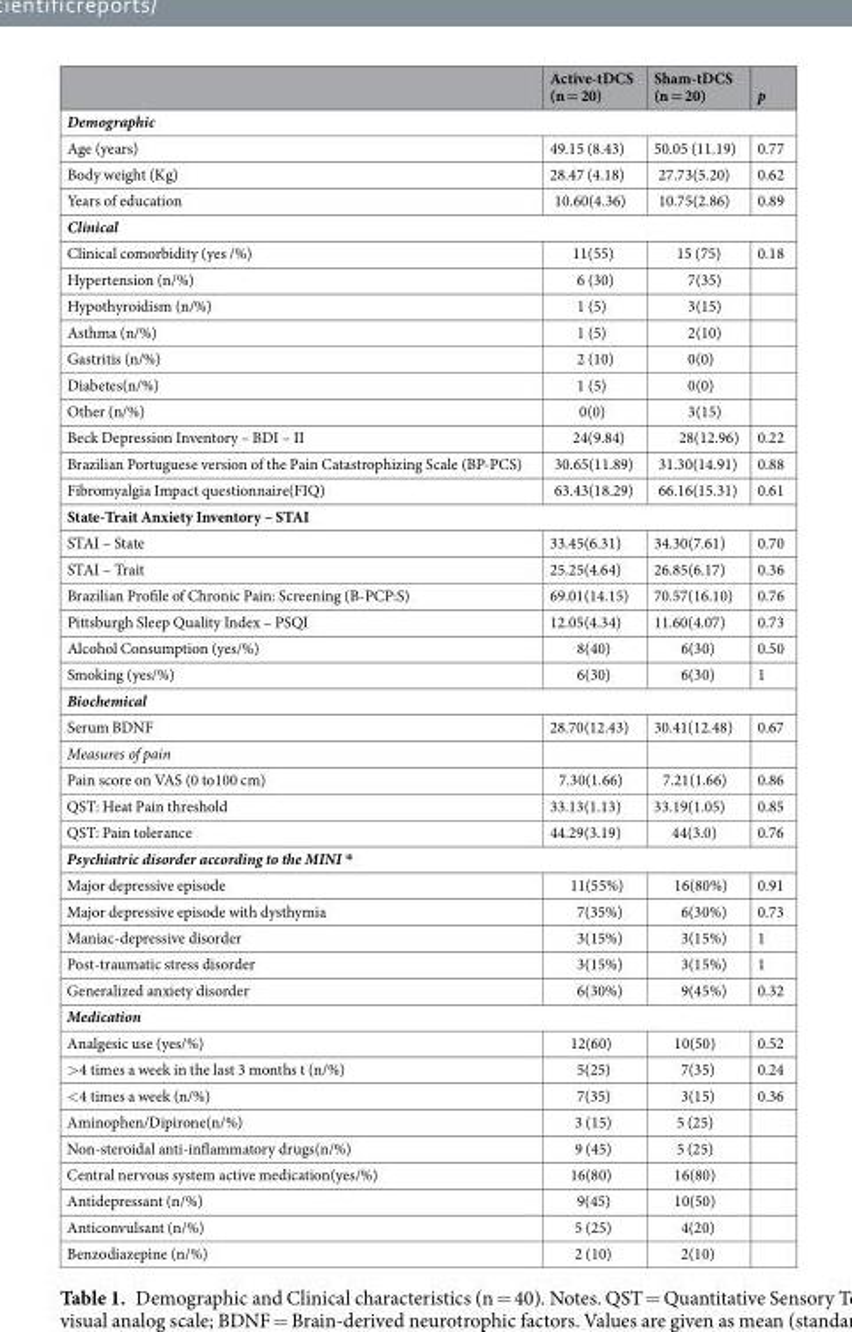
<table><thead><tr><td></td><td>Active-tDCS (n = 20)</td><td>Sham-tDCS (n = 20)</td><td>p</td></tr></thead><tbody><tr><td colspan="4">Demographic</td></tr><tr><td>Age (years)</td><td>49.15 (8.43)</td><td>50.05 (11.19)</td><td>0.77</td></tr><tr><td>Body weight (Kg)</td><td>28.47 (4.18)</td><td>27.73(5.20)</td><td>0.62</td></tr><tr><td>Years of education</td><td>10.60(4.36)</td><td>10.75(2.86)</td><td>0.89</td></tr><tr><td colspan="4">Clinical</td></tr><tr><td>Clinical comorbidity (yes /%)</td><td>11(55)</td><td>15 (75)</td><td>0.18</td></tr><tr><td>Hypertension (n/%)</td><td>6 (30)</td><td>7(35)</td><td></td></tr><tr><td>Hypothyroidism (n/%)</td><td>1 (5)</td><td>3(15)</td><td></td></tr><tr><td>Asthma (n/%)</td><td>1 (5)</td><td>2(10)</td><td></td></tr><tr><td>Gastritis (n/%)</td><td>2 (10)</td><td>0(0)</td><td></td></tr><tr><td>Diabetes(n/%)</td><td>1 (5)</td><td>0(0)</td><td></td></tr><tr><td>Other (n/%)</td><td>0(0)</td><td>3(15)</td><td></td></tr><tr><td>Beck Depression Inventory – BDI – II</td><td>24(9.84)</td><td>28(12.96)</td><td>0.22</td></tr><tr><td>Brazilian Portuguese version of the Pain Catastrophizing Scale (BP-PCS)</td><td>30.65(11.89)</td><td>31.30(14.91)</td><td>0.88</td></tr><tr><td>Fibromyalgia Impact questionnaire(FIQ)</td><td>63.43(18.29)</td><td>66.16(15.31)</td><td>0.61</td></tr><tr><td colspan="4">State-Trait Anxiety Inventory – STAI</td></tr><tr><td>STAI – State</td><td>33.45(6.31)</td><td>34.30(7.61)</td><td>0.70</td></tr><tr><td>STAI – Trait</td><td>25.25(4.64)</td><td>26.85(6.17)</td><td>0.36</td></tr><tr><td>Brazilian Profile of Chronic Pain: Screening (B-PCP:S)</td><td>69.01(14.15)</td><td>70.57(16.10)</td><td>0.76</td></tr><tr><td>Pittsburgh Sleep Quality Index – PSQI</td><td>12.05(4.34)</td><td>11.60(4.07)</td><td>0.73</td></tr><tr><td>Alcohol Consumption (yes/%)</td><td>8(40)</td><td>6(30)</td><td>0.50</td></tr><tr><td>Smoking (yes/%)</td><td>6(30)</td><td>6(30)</td><td>1</td></tr><tr><td colspan="4">Biochemical</td></tr><tr><td>Serum BDNF</td><td>28.70(12.43)</td><td>30.41(12.48)</td><td>0.67</td></tr><tr><td colspan="4">Measures of pain</td></tr><tr><td>Pain score on VAS (0 to100 cm)</td><td>7.30(1.66)</td><td>7.21(1.66)</td><td>0.86</td></tr><tr><td>QST: Heat Pain threshold</td><td>33.13(1.13)</td><td>33.19(1.05)</td><td>0.85</td></tr><tr><td>QST: Pain tolerance</td><td>44.29(3.19)</td><td>44(3.0)</td><td>0.76</td></tr><tr><td colspan="4">Psychiatric disorder according to the MINI *</td></tr><tr><td>Major depressive episode</td><td>11(55%)</td><td>16(80%)</td><td>0.91</td></tr><tr><td>Major depressive episode with dysthymia</td><td>7(35%)</td><td>6(30%)</td><td>0.73</td></tr><tr><td>Maniac-depressive disorder</td><td>3(15%)</td><td>3(15%)</td><td>1</td></tr><tr><td>Post-traumatic stress disorder</td><td>3(15%)</td><td>3(15%)</td><td>1</td></tr><tr><td>Generalized anxiety disorder</td><td>6(30%)</td><td>9(45%)</td><td>0.32</td></tr><tr><td colspan="4">Medication</td></tr><tr><td>Analgesic use (yes/%)</td><td>12(60)</td><td>10(50)</td><td>0.52</td></tr><tr><td>&gt;4 times a week in the last 3 months t (n/%)</td><td>5(25)</td><td>7(35)</td><td>0.24</td></tr><tr><td>&lt;4 times a week (n/%)</td><td>7(35)</td><td>3(15)</td><td>0.36</td></tr><tr><td>Aminophen/Dipirone(n/%)</td><td>3 (15)</td><td>5 (25)</td><td></td></tr><tr><td>Non-steroidal anti-inflammatory drugs(n/%)</td><td>9 (45)</td><td>5 (25)</td><td></td></tr><tr><td>Central nervous system active medication(yes/%)</td><td>16(80)</td><td>16(80)</td><td></td></tr><tr><td>Antidepressant (n/%)</td><td>9(45)</td><td>10(50)</td><td></td></tr><tr><td>Anticonvulsant (n/%)</td><td>5 (25)</td><td>4(20)</td><td></td></tr><tr><td>Benzodiazepine (n/%)</td><td>2 (10)</td><td>2(10)</td><td></td></tr></tbody></table>